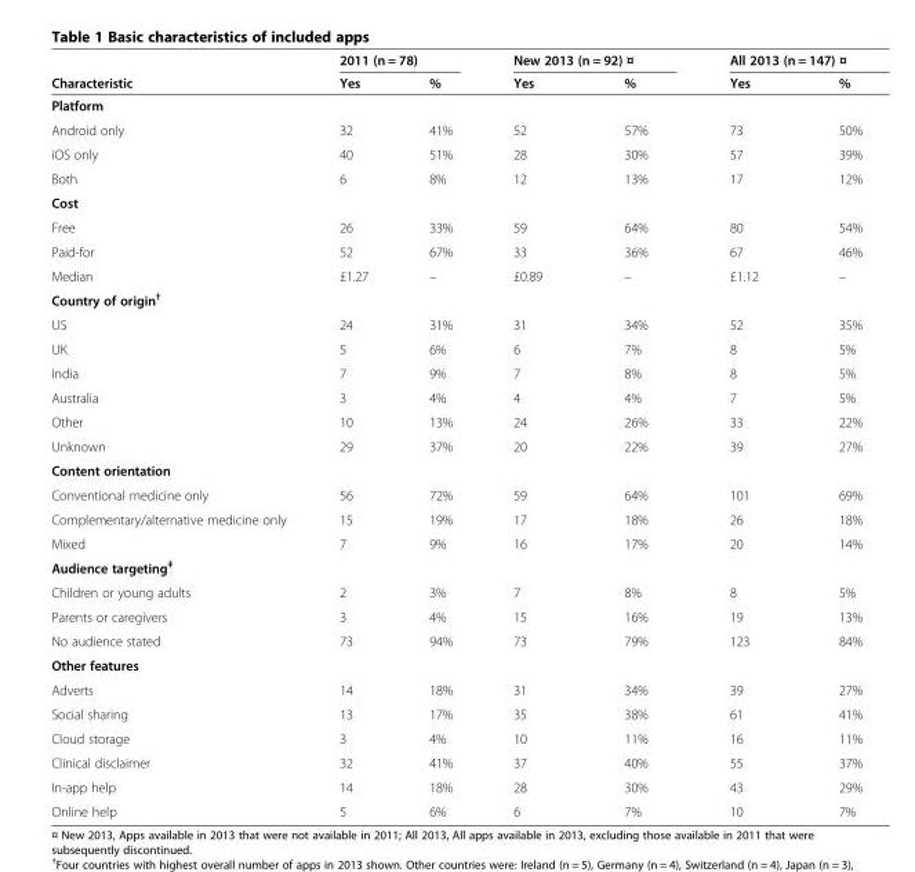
<table><thead><tr><td rowspan="2">Characteristic</td><td colspan="2">2011 (n = 78)</td><td colspan="2">New 2013 (n = 92) ¤</td><td colspan="2">All 2013 (n = 147) ¤</td></tr><tr><td>Yes</td><td>%</td><td>Yes</td><td>%</td><td>Yes</td><td>%</td></tr></thead><tbody><tr><td colspan="7">Platform</td></tr><tr><td>Android only</td><td>32</td><td>41%</td><td>52</td><td>57%</td><td>73</td><td>50%</td></tr><tr><td>iOS only</td><td>40</td><td>51%</td><td>28</td><td>30%</td><td>57</td><td>39%</td></tr><tr><td>Both</td><td>6</td><td>8%</td><td>12</td><td>13%</td><td>17</td><td>12%</td></tr><tr><td colspan="7">Cost</td></tr><tr><td>Free</td><td>26</td><td>33%</td><td>59</td><td>64%</td><td>80</td><td>54%</td></tr><tr><td>Paid-for</td><td>52</td><td>67%</td><td>33</td><td>36%</td><td>67</td><td>46%</td></tr><tr><td>Median</td><td>£1.27</td><td>–</td><td>£0.89</td><td>–</td><td>£1.12</td><td>–</td></tr><tr><td colspan="7">Country of origin<sup>†</sup></td></tr><tr><td>US</td><td>24</td><td>31%</td><td>31</td><td>34%</td><td>52</td><td>35%</td></tr><tr><td>UK</td><td>5</td><td>6%</td><td>6</td><td>7%</td><td>8</td><td>5%</td></tr><tr><td>India</td><td>7</td><td>9%</td><td>7</td><td>8%</td><td>8</td><td>5%</td></tr><tr><td>Australia</td><td>3</td><td>4%</td><td>4</td><td>4%</td><td>7</td><td>5%</td></tr><tr><td>Other</td><td>10</td><td>13%</td><td>24</td><td>26%</td><td>33</td><td>22%</td></tr><tr><td>Unknown</td><td>29</td><td>37%</td><td>20</td><td>22%</td><td>39</td><td>27%</td></tr><tr><td colspan="7">Content orientation</td></tr><tr><td>Conventional medicine only</td><td>56</td><td>72%</td><td>59</td><td>64%</td><td>101</td><td>69%</td></tr><tr><td>Complementary/alternative medicine only</td><td>15</td><td>19%</td><td>17</td><td>18%</td><td>26</td><td>18%</td></tr><tr><td>Mixed</td><td>7</td><td>9%</td><td>16</td><td>17%</td><td>20</td><td>14%</td></tr><tr><td colspan="7">Audience targeting<sup>‡</sup></td></tr><tr><td>Children or young adults</td><td>2</td><td>3%</td><td>7</td><td>8%</td><td>8</td><td>5%</td></tr><tr><td>Parents or caregivers</td><td>3</td><td>4%</td><td>15</td><td>16%</td><td>19</td><td>13%</td></tr><tr><td>No audience stated</td><td>73</td><td>94%</td><td>73</td><td>79%</td><td>123</td><td>84%</td></tr><tr><td colspan="7">Other features</td></tr><tr><td>Adverts</td><td>14</td><td>18%</td><td>31</td><td>34%</td><td>39</td><td>27%</td></tr><tr><td>Social sharing</td><td>13</td><td>17%</td><td>35</td><td>38%</td><td>61</td><td>41%</td></tr><tr><td>Cloud storage</td><td>3</td><td>4%</td><td>10</td><td>11%</td><td>16</td><td>11%</td></tr><tr><td>Clinical disclaimer</td><td>32</td><td>41%</td><td>37</td><td>40%</td><td>55</td><td>37%</td></tr><tr><td>In-app help</td><td>14</td><td>18%</td><td>28</td><td>30%</td><td>43</td><td>29%</td></tr><tr><td>Online help</td><td>5</td><td>6%</td><td>6</td><td>7%</td><td>10</td><td>7%</td></tr></tbody></table>